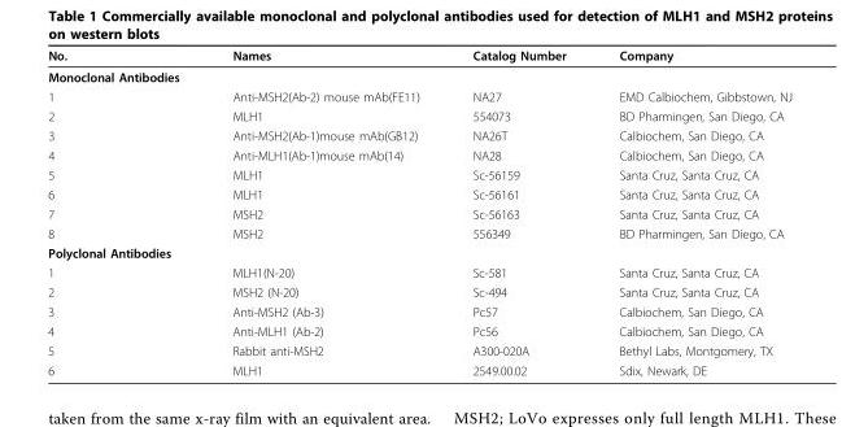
<table><thead><tr><td>No.</td><td>Names</td><td>Catalog Number</td><td>Company</td></tr></thead><tbody><tr><td colspan="4">Monoclonal Antibodies</td></tr><tr><td>1</td><td>Anti-MSH2(Ab-2) mouse mAb(FE11)</td><td>NA27</td><td>EMD Calbiochem, Gibbstown, NJ</td></tr><tr><td>2</td><td>MLH1</td><td>554073</td><td>BD Pharmingen, San Diego, CA</td></tr><tr><td>3</td><td>Anti-MSH2(Ab-1)mouse mAb(GB12)</td><td>NA26T</td><td>Calbiochem, San Diego, CA</td></tr><tr><td>4</td><td>Anti-MLH1(Ab-1)mouse mAb(14)</td><td>NA28</td><td>Calbiochem, San Diego, CA</td></tr><tr><td>5</td><td>MLH1</td><td>Sc-56159</td><td>Santa Cruz, Santa Cruz, CA</td></tr><tr><td>6</td><td>MLH1</td><td>Sc-56161</td><td>Santa Cruz, Santa Cruz, CA</td></tr><tr><td>7</td><td>MSH2</td><td>Sc-56163</td><td>Santa Cruz, Santa Cruz, CA</td></tr><tr><td>8</td><td>MSH2</td><td>556349</td><td>BD Pharmingen, San Diego, CA</td></tr><tr><td colspan="4">Polyclonal Antibodies</td></tr><tr><td>1</td><td>MLH1(N-20)</td><td>Sc-581</td><td>Santa Cruz, Santa Cruz, CA</td></tr><tr><td>2</td><td>MSH2 (N-20)</td><td>Sc-494</td><td>Santa Cruz, Santa Cruz, CA</td></tr><tr><td>3</td><td>Anti-MSH2 (Ab-3)</td><td>Pc57</td><td>Calbiochem, San Diego, CA</td></tr><tr><td>4</td><td>Anti-MLH1 (Ab-2)</td><td>Pc56</td><td>Calbiochem, San Diego, CA</td></tr><tr><td>5</td><td>Rabbit anti-MSH2</td><td>A300-020A</td><td>Bethyl Labs, Montgomery, TX</td></tr><tr><td>6</td><td>MLH1</td><td>2549.00.02</td><td>Sdix, Newark, DE</td></tr></tbody></table>